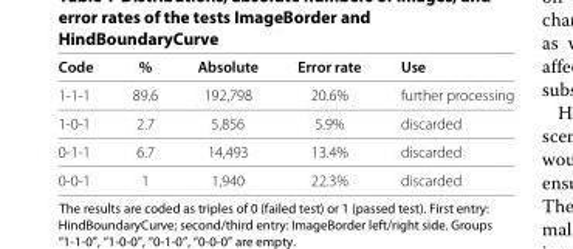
<table><thead><tr><td>Code</td><td>%</td><td>Absolute</td><td>Error rate</td><td>Use</td></tr></thead><tbody><tr><td>1-1-1</td><td>89.6</td><td>192,798</td><td>20.6%</td><td>further processing</td></tr><tr><td>1-0-1</td><td>2.7</td><td>5,856</td><td>5.9%</td><td>discarded</td></tr><tr><td>0-1-1</td><td>6.7</td><td>14,493</td><td>13.4%</td><td>discarded</td></tr><tr><td>0-0-1</td><td>1</td><td>1,940</td><td>22.3%</td><td>discarded</td></tr></tbody></table>